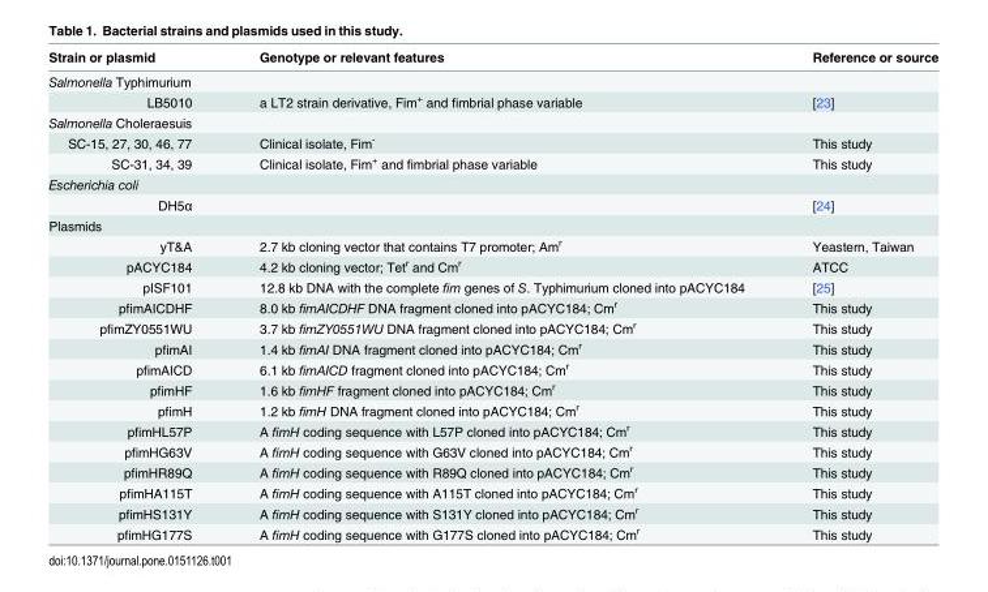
<table><thead><tr><td>Strain or plasmid</td><td>Genotype or relevant features</td><td>Reference or source</td></tr></thead><tbody><tr><td colspan="3">Salmonella Typhimurium</td></tr><tr><td>LB5010</td><td>a LT2 strain derivative, Fim<sup>+</sup> and fimbrial phase variable</td><td>[23]</td></tr><tr><td colspan="3">Salmonella Choleraesuis</td></tr><tr><td>SC-15, 27, 30, 46, 77</td><td>Clinical isolate, Fim<sup>-</sup></td><td>This study</td></tr><tr><td>SC-31, 34, 39</td><td>Clinical isolate, Fim<sup>+</sup> and fimbrial phase variable</td><td>This study</td></tr><tr><td colspan="3">Escherichia coli</td></tr><tr><td>DH5α</td><td></td><td>[24]</td></tr><tr><td colspan="3">Plasmids</td></tr><tr><td>yT&amp;A</td><td>2.7 kb cloning vector that contains T7 promoter; Am<sup>r</sup></td><td>Yeastern, Taiwan</td></tr><tr><td>pACYC184</td><td>4.2 kb cloning vector; Tet<sup>r</sup> and Cm<sup>r</sup></td><td>ATCC</td></tr><tr><td>pISF101</td><td>12.8 kb DNA with the complete fim genes of S. Typhimurium cloned into pACYC184</td><td>[25]</td></tr><tr><td>pfimAICDHF</td><td>8.0 kb fimAICDHF DNA fragment cloned into pACYC184; Cm<sup>r</sup></td><td>This study</td></tr><tr><td>pfimZY0551WU</td><td>3.7 kb fimZY0551WU DNA fragment cloned into pACYC184; Cm<sup>r</sup></td><td>This study</td></tr><tr><td>pfimAI</td><td>1.4 kb fimAI DNA fragment cloned into pACYC184; Cm<sup>r</sup></td><td>This study</td></tr><tr><td>pfimAICD</td><td>6.1 kb fimAICD fragment cloned into pACYC184; Cm<sup>r</sup></td><td>This study</td></tr><tr><td>pfimHF</td><td>1.6 kb fimHF fragment cloned into pACYC184; Cm<sup>r</sup></td><td>This study</td></tr><tr><td>pfimH</td><td>1.2 kb fimH DNA fragment cloned into pACYC184; Cm<sup>r</sup></td><td>This study</td></tr><tr><td>pfimHL57P</td><td>A fimH coding sequence with L57P cloned into pACYC184; Cm<sup>r</sup></td><td>This study</td></tr><tr><td>pfimHG63V</td><td>A fimH coding sequence with G63V cloned into pACYC184; Cm<sup>r</sup></td><td>This study</td></tr><tr><td>pfimHR89Q</td><td>A fimH coding sequence with R89Q cloned into pACYC184; Cm<sup>r</sup></td><td>This study</td></tr><tr><td>pfimHA115T</td><td>A fimH coding sequence with A115T cloned into pACYC184; Cm<sup>r</sup></td><td>This study</td></tr><tr><td>pfimHS131Y</td><td>A fimH coding sequence with S131Y cloned into pACYC184; Cm<sup>r</sup></td><td>This study</td></tr><tr><td>pfimHG177S</td><td>A fimH coding sequence with G177S cloned into pACYC184; Cm<sup>r</sup></td><td>This study</td></tr></tbody></table>